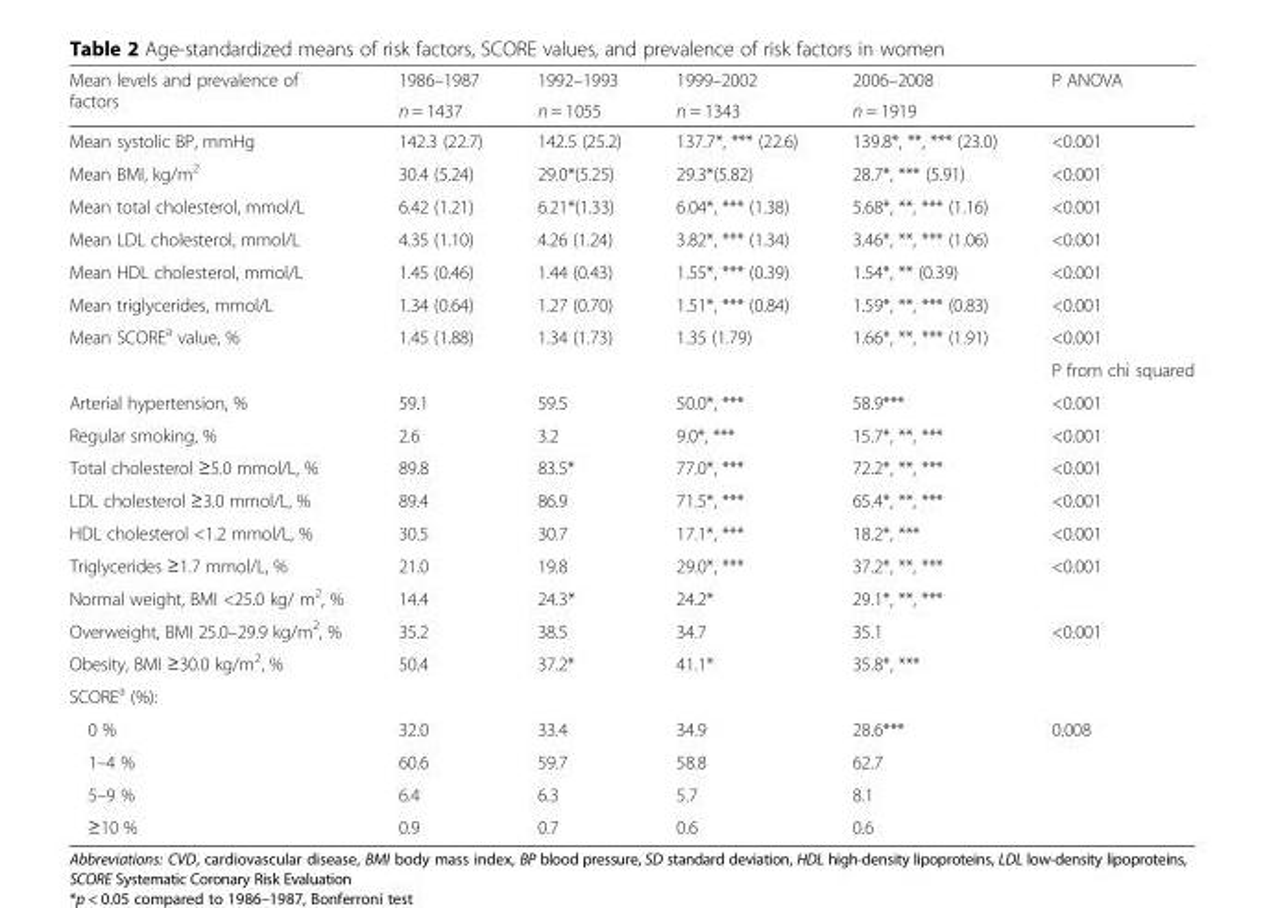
<table><thead><tr><td rowspan="2">Mean levels and prevalence of factors</td><td rowspan="2">1986–1987 n = 1437</td><td rowspan="2">1992–1993 n = 1055</td><td rowspan="2">1999–2002 n = 1343</td><td rowspan="2">2006–2008 n = 1919</td><td rowspan="2">P ANOVA</td></tr><tr></tr></thead><tbody><tr><td>Mean systolic BP, mmHg</td><td>142.3 (22.7)</td><td>142.5 (25.2)</td><td>137.7*, *** (22.6)</td><td>139.8*, **, *** (23.0)</td><td>&lt;0.001</td></tr><tr><td>Mean BMI, kg/m<sup>2</sup></td><td>30.4 (5.24)</td><td>29.0*(5.25)</td><td>29.3*(5.82)</td><td>28.7*, *** (5.91)</td><td>&lt;0.001</td></tr><tr><td>Mean total cholesterol, mmol/L</td><td>6.42 (1.21)</td><td>6.21*(1.33)</td><td>6.04*, *** (1.38)</td><td>5.68*, **, *** (1.16)</td><td>&lt;0.001</td></tr><tr><td>Mean LDL cholesterol, mmol/L</td><td>4.35 (1.10)</td><td>4.26 (1.24)</td><td>3.82*, *** (1.34)</td><td>3.46*, **, *** (1.06)</td><td>&lt;0.001</td></tr><tr><td>Mean HDL cholesterol, mmol/L</td><td>1.45 (0.46)</td><td>1.44 (0.43)</td><td>1.55*, *** (0.39)</td><td>1.54*, ** (0.39)</td><td>&lt;0.001</td></tr><tr><td>Mean triglycerides, mmol/L</td><td>1.34 (0.64)</td><td>1.27 (0.70)</td><td>1.51*, *** (0.84)</td><td>1.59*, **, *** (0.83)</td><td>&lt;0.001</td></tr><tr><td rowspan="2">Mean SCORE<sup>a</sup> value, %</td><td>1.45 (1.88)</td><td>1.34 (1.73)</td><td>1.35 (1.79)</td><td>1.66*, **, *** (1.91)</td><td>&lt;0.001</td></tr><tr><td></td><td></td><td></td><td></td><td>P from chi squared</td></tr><tr><td>Arterial hypertension, %</td><td>59.1</td><td>59.5</td><td>50.0*, ***</td><td>58.9***</td><td>&lt;0.001</td></tr><tr><td>Regular smoking, %</td><td>2.6</td><td>3.2</td><td>9.0*, ***</td><td>15.7*, **, ***</td><td>&lt;0.001</td></tr><tr><td>Total cholesterol ≥5.0 mmol/L, %</td><td>89.8</td><td>83.5*</td><td>77.0*, ***</td><td>72.2*, **, ***</td><td>&lt;0.001</td></tr><tr><td>LDL cholesterol ≥3.0 mmol/L, %</td><td>89.4</td><td>86.9</td><td>71.5*, ***</td><td>65.4*, **, ***</td><td>&lt;0.001</td></tr><tr><td>HDL cholesterol &lt;1.2 mmol/L, %</td><td>30.5</td><td>30.7</td><td>17.1*, ***</td><td>18.2*, ***</td><td>&lt;0.001</td></tr><tr><td>Triglycerides ≥1.7 mmol/L, %</td><td>21.0</td><td>19.8</td><td>29.0*, ***</td><td>37.2*, **, ***</td><td>&lt;0.001</td></tr><tr><td>Normal weight, BMI &lt;25.0 kg/ m<sup>2</sup>, %</td><td>14.4</td><td>24.3*</td><td>24.2*</td><td>29.1*, **, ***</td><td></td></tr><tr><td>Overweight, BMI 25.0–29.9 kg/m<sup>2</sup>, %</td><td>35.2</td><td>38.5</td><td>34.7</td><td>35.1</td><td rowspan="2">&lt;0.001</td></tr><tr><td>Obesity, BMI ≥30.0 kg/m<sup>2</sup>, %</td><td>50.4</td><td>37.2*</td><td>41.1*</td><td>35.8*, ***</td></tr><tr><td colspan="6">SCORE<sup>a</sup> (%):</td></tr><tr><td>0 %</td><td>32.0</td><td>33.4</td><td>34.9</td><td>28.6***</td><td rowspan="4">0.008</td></tr><tr><td>1–4 %</td><td>60.6</td><td>59.7</td><td>58.8</td><td>62.7</td></tr><tr><td>5–9 %</td><td>6.4</td><td>6.3</td><td>5.7</td><td>8.1</td></tr><tr><td>≥10 %</td><td>0.9</td><td>0.7</td><td>0.6</td><td>0.6</td></tr></tbody></table>